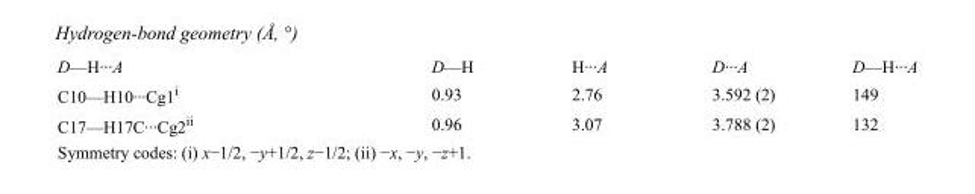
<table><tbody><tr><td>D—H···A</td><td>D—H</td><td>H···A</td><td>D···A</td><td>D—H···A</td></tr><tr><td>C10—H10···Cg1<sup>i</sup></td><td>0.93</td><td>2.76</td><td>3.592 (2)</td><td>149</td></tr><tr><td>C17—H17C···Cg2<sup>ii</sup></td><td>0.96</td><td>3.07</td><td>3.788 (2)</td><td>132</td></tr></tbody></table>